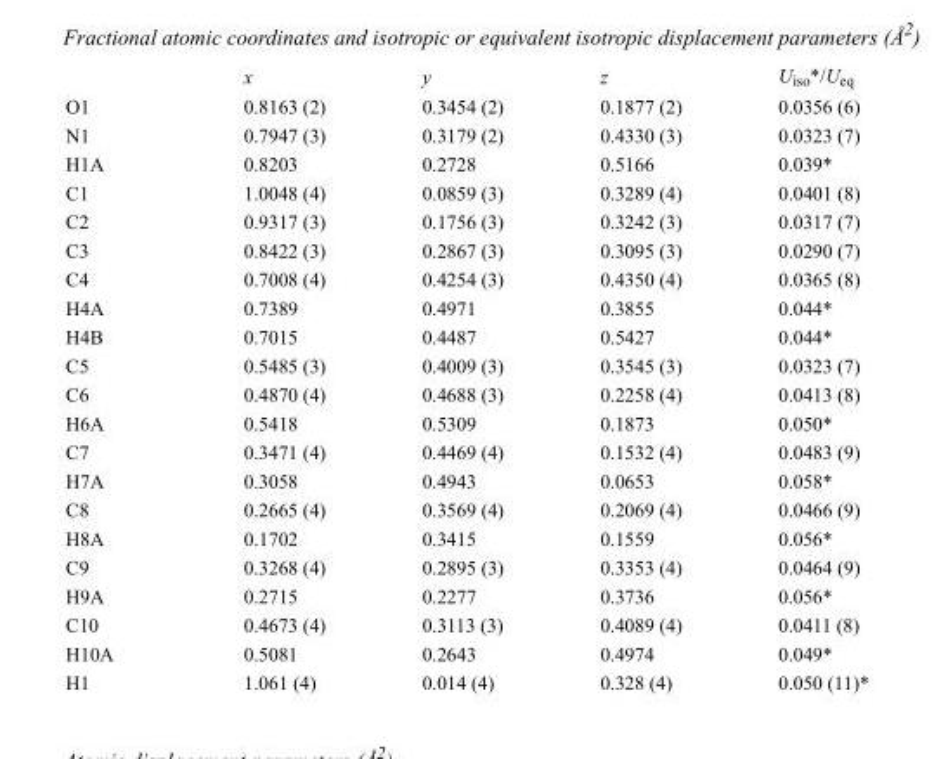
<table><thead><tr><td></td><td>x</td><td>y</td><td>z</td><td>U<sub>iso</sub>*/U<sub>eq</sub></td></tr></thead><tbody><tr><td>O1</td><td>0.8163 (2)</td><td>0.3454 (2)</td><td>0.1877 (2)</td><td>0.0356 (6)</td></tr><tr><td>N1</td><td>0.7947 (3)</td><td>0.3179 (2)</td><td>0.4330 (3)</td><td>0.0323 (7)</td></tr><tr><td>H1A</td><td>0.8203</td><td>0.2728</td><td>0.5166</td><td>0.039*</td></tr><tr><td>C1</td><td>1.0048 (4)</td><td>0.0859 (3)</td><td>0.3289 (4)</td><td>0.0401 (8)</td></tr><tr><td>C2</td><td>0.9317 (3)</td><td>0.1756 (3)</td><td>0.3242 (3)</td><td>0.0317 (7)</td></tr><tr><td>C3</td><td>0.8422 (3)</td><td>0.2867 (3)</td><td>0.3095 (3)</td><td>0.0290 (7)</td></tr><tr><td>C4</td><td>0.7008 (4)</td><td>0.4254 (3)</td><td>0.4350 (4)</td><td>0.0365 (8)</td></tr><tr><td>H4A</td><td>0.7389</td><td>0.4971</td><td>0.3855</td><td>0.044*</td></tr><tr><td>H4B</td><td>0.7015</td><td>0.4487</td><td>0.5427</td><td>0.044*</td></tr><tr><td>C5</td><td>0.5485 (3)</td><td>0.4009 (3)</td><td>0.3545 (3)</td><td>0.0323 (7)</td></tr><tr><td>C6</td><td>0.4870 (4)</td><td>0.4688 (3)</td><td>0.2258 (4)</td><td>0.0413 (8)</td></tr><tr><td>H6A</td><td>0.5418</td><td>0.5309</td><td>0.1873</td><td>0.050*</td></tr><tr><td>C7</td><td>0.3471 (4)</td><td>0.4469 (4)</td><td>0.1532 (4)</td><td>0.0483 (9)</td></tr><tr><td>H7A</td><td>0.3058</td><td>0.4943</td><td>0.0653</td><td>0.058*</td></tr><tr><td>C8</td><td>0.2665 (4)</td><td>0.3569 (4)</td><td>0.2069 (4)</td><td>0.0466 (9)</td></tr><tr><td>H8A</td><td>0.1702</td><td>0.3415</td><td>0.1559</td><td>0.056*</td></tr><tr><td>C9</td><td>0.3268 (4)</td><td>0.2895 (3)</td><td>0.3353 (4)</td><td>0.0464 (9)</td></tr><tr><td>H9A</td><td>0.2715</td><td>0.2277</td><td>0.3736</td><td>0.056*</td></tr><tr><td>C10</td><td>0.4673 (4)</td><td>0.3113 (3)</td><td>0.4089 (4)</td><td>0.0411 (8)</td></tr><tr><td>H10A</td><td>0.5081</td><td>0.2643</td><td>0.4974</td><td>0.049*</td></tr><tr><td>H1</td><td>1.061 (4)</td><td>0.014 (4)</td><td>0.328 (4)</td><td>0.050 (11)*</td></tr></tbody></table>